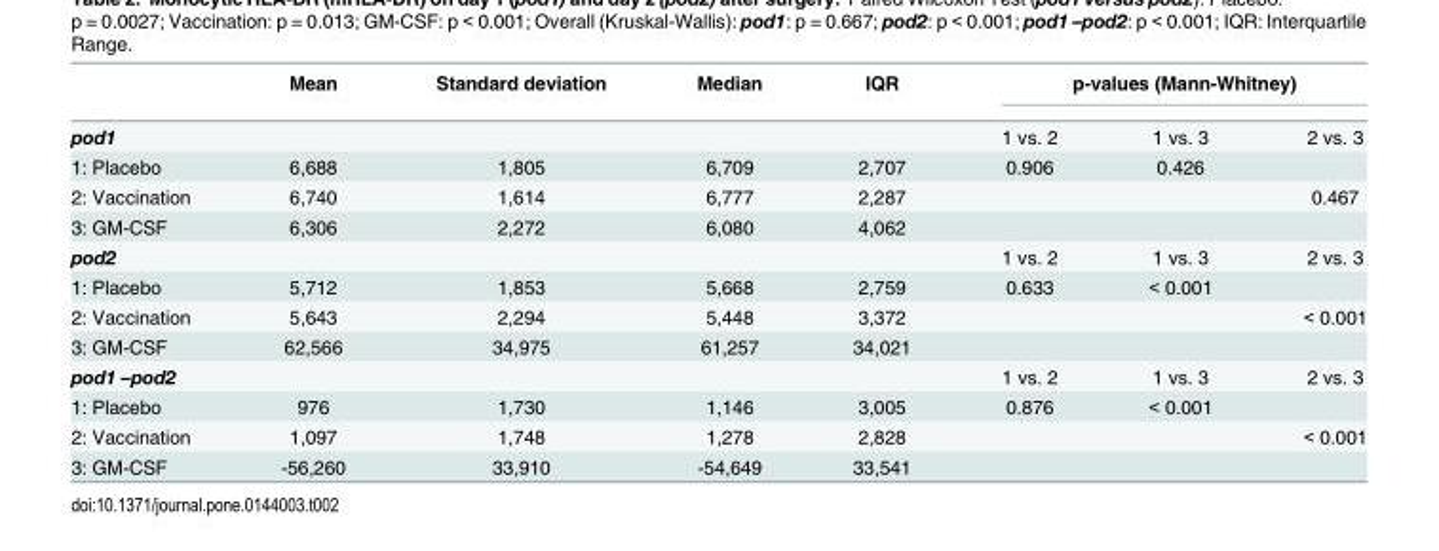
<table><thead><tr><td rowspan="2">pod1</td><td rowspan="2">Mean</td><td rowspan="2">Standard deviation</td><td rowspan="2">Median</td><td rowspan="2">IQR</td><td colspan="3">p-values (Mann-Whitney)</td></tr><tr><td>1 vs. 2</td><td>1 vs. 3</td><td>2 vs. 3</td></tr></thead><tbody><tr><td>1: Placebo</td><td>6,688</td><td>1,805</td><td>6,709</td><td>2,707</td><td>0.906</td><td>0.426</td><td></td></tr><tr><td>2: Vaccination</td><td>6,740</td><td>1,614</td><td>6,777</td><td>2,287</td><td></td><td></td><td>0.467</td></tr><tr><td>3: GM-CSF</td><td>6,306</td><td>2,272</td><td>6,080</td><td>4,062</td><td></td><td></td><td></td></tr><tr><td>pod2</td><td></td><td></td><td></td><td></td><td>1 vs. 2</td><td>1 vs. 3</td><td>2 vs. 3</td></tr><tr><td>1: Placebo</td><td>5,712</td><td>1,853</td><td>5,668</td><td>2,759</td><td>0.633</td><td>&lt; 0.001</td><td></td></tr><tr><td>2: Vaccination</td><td>5,643</td><td>2,294</td><td>5,448</td><td>3,372</td><td></td><td></td><td>&lt; 0.001</td></tr><tr><td>3: GM-CSF</td><td>62,566</td><td>34,975</td><td>61,257</td><td>34,021</td><td></td><td></td><td></td></tr><tr><td>pod1 –pod2</td><td></td><td></td><td></td><td></td><td>1 vs. 2</td><td>1 vs. 3</td><td>2 vs. 3</td></tr><tr><td>1: Placebo</td><td>976</td><td>1,730</td><td>1,146</td><td>3,005</td><td>0.876</td><td>&lt; 0.001</td><td></td></tr><tr><td>2: Vaccination</td><td>1,097</td><td>1,748</td><td>1,278</td><td>2,828</td><td></td><td></td><td>&lt; 0.001</td></tr><tr><td>3: GM-CSF</td><td>-56,260</td><td>33,910</td><td>-54,649</td><td>33,541</td><td></td><td></td><td></td></tr></tbody></table>